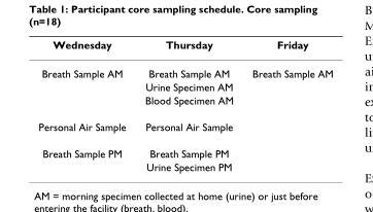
<table><thead><tr><td>Wednesday</td><td>Thursday</td><td>Friday</td></tr></thead><tbody><tr><td rowspan="3">Breath Sample AM</td><td>Breath Sample AM</td><td>Breath Sample AM</td></tr><tr><td>Urine Specimen AM</td><td></td></tr><tr><td>Blood Specimen AM</td><td></td></tr><tr><td>Personal Air Sample</td><td>Personal Air Sample</td><td></td></tr><tr><td rowspan="2">Breath Sample PM</td><td>Breath Sample PM</td><td></td></tr><tr><td>Urine Specimen PM</td><td></td></tr></tbody></table>